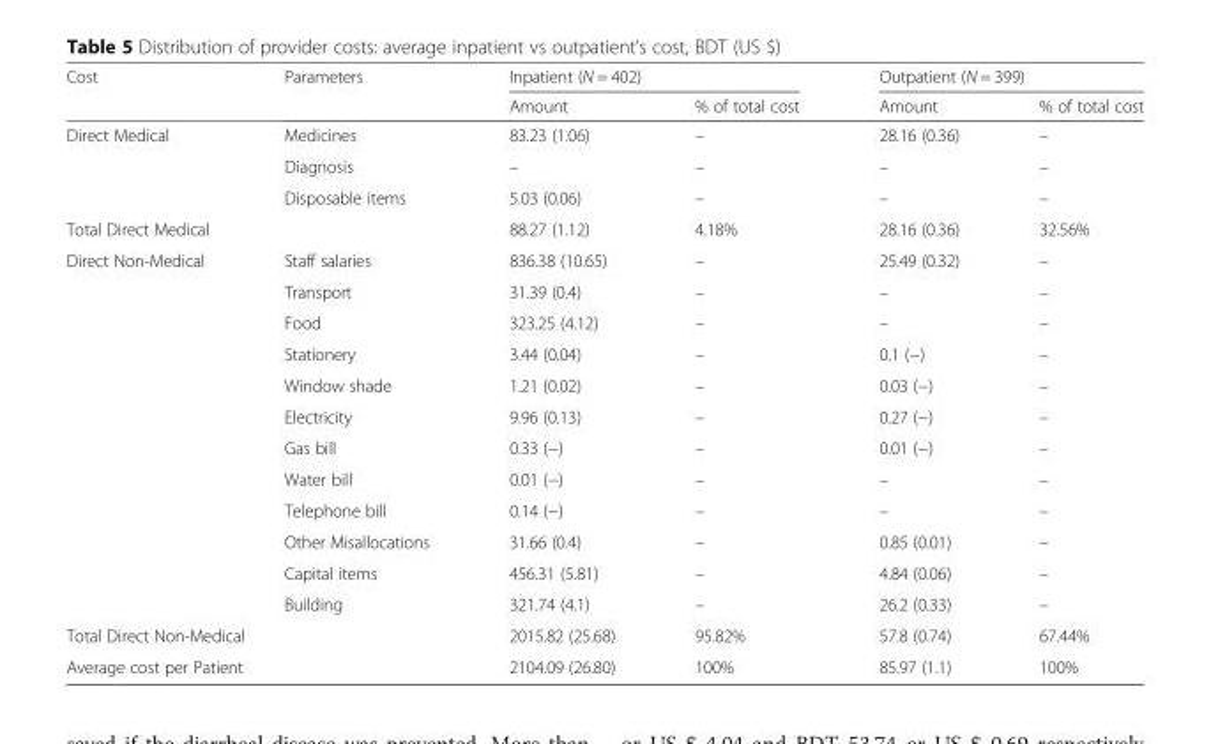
<table><thead><tr><td rowspan="2">Cost</td><td rowspan="2">Parameters</td><td colspan="2">Inpatient (N = 402)</td><td colspan="2">Outpatient (N = 399)</td></tr><tr><td>Amount</td><td>% of total cost</td><td>Amount</td><td>% of total cost</td></tr></thead><tbody><tr><td rowspan="3">Direct Medical</td><td>Medicines</td><td>83.23 (1.06)</td><td>–</td><td>28.16 (0.36)</td><td>–</td></tr><tr><td>Diagnosis</td><td>–</td><td>–</td><td>–</td><td>–</td></tr><tr><td>Disposable items</td><td>5.03 (0.06)</td><td>–</td><td>–</td><td>–</td></tr><tr><td colspan="2">Total Direct Medical</td><td>88.27 (1.12)</td><td>4.18%</td><td>28.16 (0.36)</td><td>32.56%</td></tr><tr><td rowspan="12">Direct Non-Medical</td><td>Staff salaries</td><td>836.38 (10.65)</td><td>–</td><td>25.49 (0.32)</td><td>–</td></tr><tr><td>Transport</td><td>31.39 (0.4)</td><td>–</td><td>–</td><td>–</td></tr><tr><td>Food</td><td>323.25 (4.12)</td><td>–</td><td>–</td><td>–</td></tr><tr><td>Stationery</td><td>3.44 (0.04)</td><td>–</td><td>0.1 (−)</td><td>–</td></tr><tr><td>Window shade</td><td>1.21 (0.02)</td><td>–</td><td>0.03 (−)</td><td>–</td></tr><tr><td>Electricity</td><td>9.96 (0.13)</td><td>–</td><td>0.27 (−)</td><td>–</td></tr><tr><td>Gas bill</td><td>0.33 (−)</td><td>–</td><td>0.01 (−)</td><td>–</td></tr><tr><td>Water bill</td><td>0.01 (−)</td><td>–</td><td>–</td><td>–</td></tr><tr><td>Telephone bill</td><td>0.14 (−)</td><td>–</td><td>–</td><td>–</td></tr><tr><td>Other Misallocations</td><td>31.66 (0.4)</td><td>–</td><td>0.85 (0.01)</td><td>–</td></tr><tr><td>Capital items</td><td>456.31 (5.81)</td><td>–</td><td>4.84 (0.06)</td><td>–</td></tr><tr><td>Building</td><td>321.74 (4.1)</td><td>–</td><td>26.2 (0.33)</td><td>–</td></tr><tr><td colspan="2">Total Direct Non-Medical</td><td>2015.82 (25.68)</td><td>95.82%</td><td>57.8 (0.74)</td><td>67.44%</td></tr><tr><td colspan="2">Average cost per Patient</td><td>2104.09 (26.80)</td><td>100%</td><td>85.97 (1.1)</td><td>100%</td></tr></tbody></table>